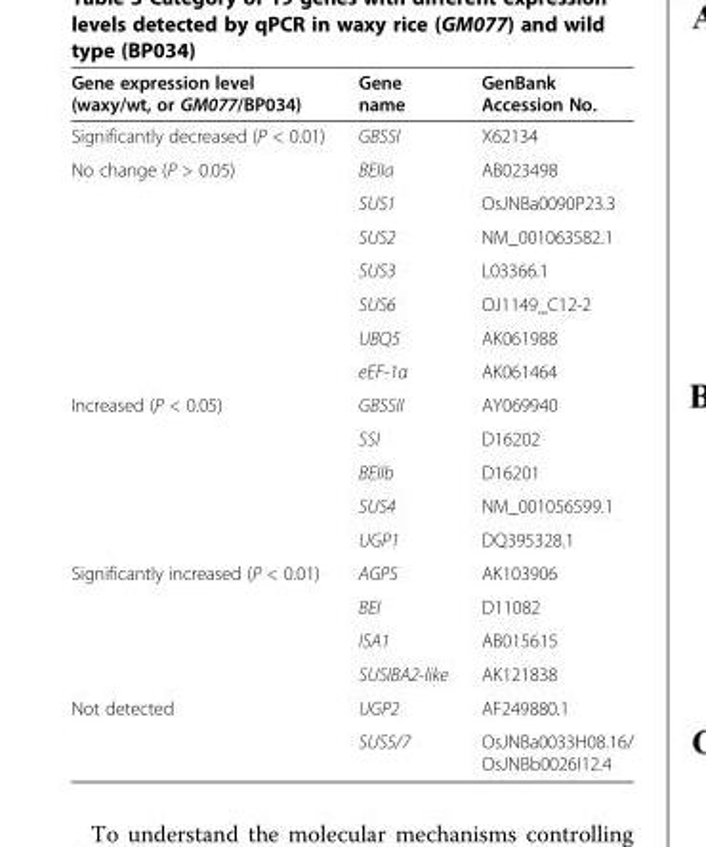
<table><thead><tr><td>Gene expression level (waxy/wt, or GM077/BP034)</td><td>Gene name</td><td>GenBank Accession No.</td></tr></thead><tbody><tr><td>Significantly decreased (P &lt; 0.01)</td><td>GBSSI</td><td>X62134</td></tr><tr><td rowspan="7">No change (P &gt; 0.05)</td><td>BEIIa</td><td>AB023498</td></tr><tr><td>SUS1</td><td>OsJNBa0090P23.3</td></tr><tr><td>SUS2</td><td>NM_001063582.1</td></tr><tr><td>SUS3</td><td>L03366.1</td></tr><tr><td>SUS6</td><td>OJ1149_C12-2</td></tr><tr><td>UBQ5</td><td>AK061988</td></tr><tr><td>eEF-1α</td><td>AK061464</td></tr><tr><td rowspan="5">Increased (P &lt; 0.05)</td><td>GBSSII</td><td>AY069940</td></tr><tr><td>SSI</td><td>D16202</td></tr><tr><td>BEIIb</td><td>D16201</td></tr><tr><td>SUS4</td><td>NM_001056599.1</td></tr><tr><td>UGP1</td><td>DQ395328.1</td></tr><tr><td rowspan="4">Significantly increased (P &lt; 0.01)</td><td>AGPS</td><td>AK103906</td></tr><tr><td>BEI</td><td>D11082</td></tr><tr><td>ISA1</td><td>AB015615</td></tr><tr><td>SUSIBA2-like</td><td>AK121838</td></tr><tr><td rowspan="2">Not detected</td><td>UGP2</td><td>AF249880.1</td></tr><tr><td>SUS5/7</td><td>OsJNBa0033H08.16/ OsJNBb0026I12.4</td></tr></tbody></table>